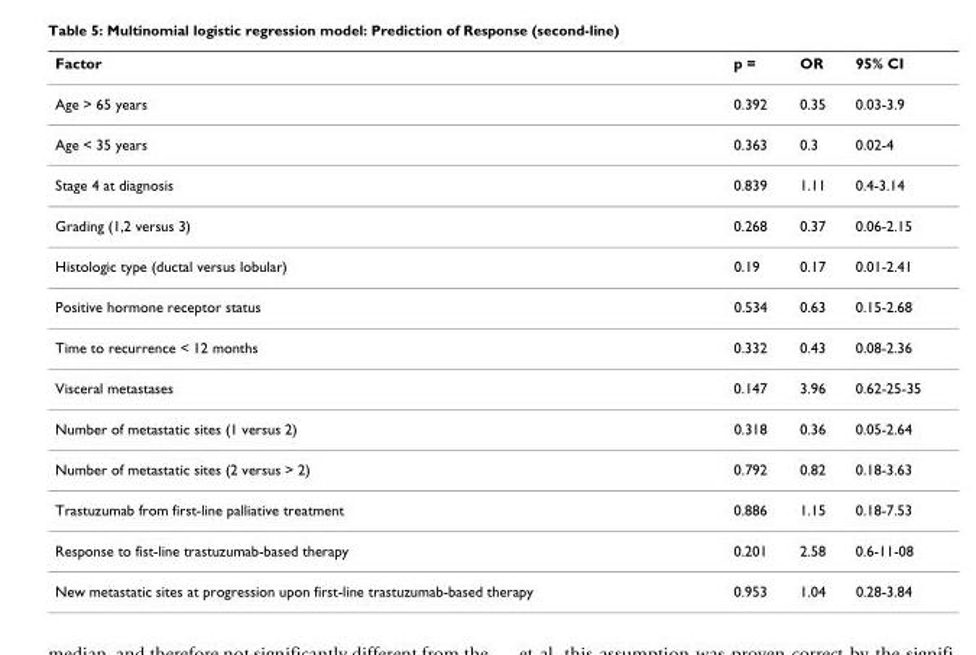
<table><thead><tr><td>Factor</td><td>p =</td><td>OR</td><td>95% CI</td></tr></thead><tbody><tr><td>Age &gt; 65 years</td><td>0.392</td><td>0.35</td><td>0.03-3.9</td></tr><tr><td>Age &lt; 35 years</td><td>0.363</td><td>0.3</td><td>0.02-4</td></tr><tr><td>Stage 4 at diagnosis</td><td>0.839</td><td>1.11</td><td>0.4-3.14</td></tr><tr><td>Grading (1,2 versus 3)</td><td>0.268</td><td>0.37</td><td>0.06-2.15</td></tr><tr><td>Histologic type (ductal versus lobular)</td><td>0.19</td><td>0.17</td><td>0.01-2.41</td></tr><tr><td>Positive hormone receptor status</td><td>0.534</td><td>0.63</td><td>0.15-2.68</td></tr><tr><td>Time to recurrence &lt; 12 months</td><td>0.332</td><td>0.43</td><td>0.08-2.36</td></tr><tr><td>Visceral metastases</td><td>0.147</td><td>3.96</td><td>0.62-25-35</td></tr><tr><td>Number of metastatic sites (1 versus 2)</td><td>0.318</td><td>0.36</td><td>0.05-2.64</td></tr><tr><td>Number of metastatic sites (2 versus &gt; 2)</td><td>0.792</td><td>0.82</td><td>0.18-3.63</td></tr><tr><td>Trastuzumab from first-line palliative treatment</td><td>0.886</td><td>1.15</td><td>0.18-7.53</td></tr><tr><td>Response to fist-line trastuzumab-based therapy</td><td>0.201</td><td>2.58</td><td>0.6-11-08</td></tr><tr><td>New metastatic sites at progression upon first-line trastuzumab-based therapy</td><td>0.953</td><td>1.04</td><td>0.28-3.84</td></tr></tbody></table>